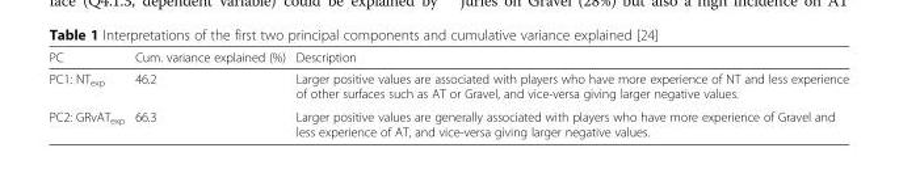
<table><thead><tr><td>PC</td><td>Cum. variance explained (%)</td><td>Description</td></tr></thead><tbody><tr><td>PC1: NT<sub>exp</sub></td><td>46.2</td><td>Larger positive values are associated with players who have more experience of NT and less experience of other surfaces such as AT or Gravel, and vice-versa giving larger negative values.</td></tr><tr><td>PC2: GRvAT<sub>exp</sub></td><td>66.3</td><td>Larger positive values are generally associated with players who have more experience of Gravel and less experience of AT, and vice-versa giving larger negative values.</td></tr></tbody></table>